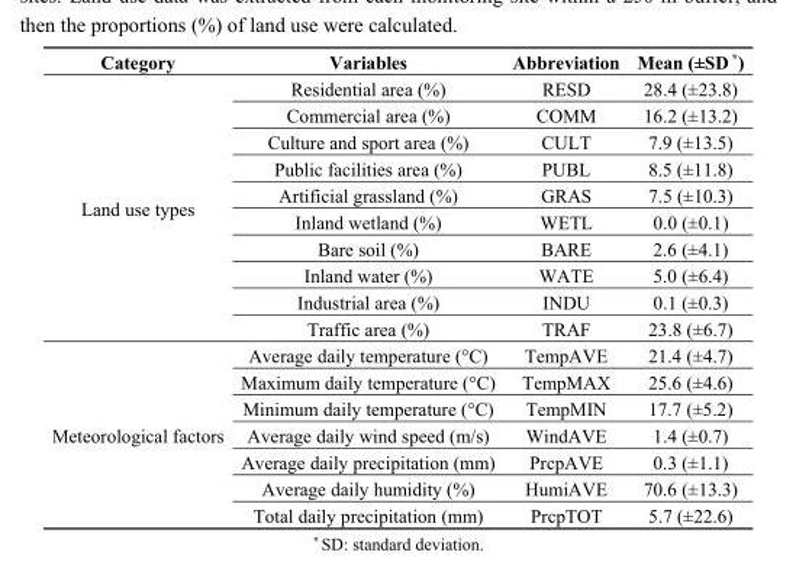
<table><thead><tr><td>Category</td><td>Variables</td><td>Abbreviation</td><td>Mean (±SD *)</td></tr></thead><tbody><tr><td rowspan="10">Land use types</td><td>Residential area (%)</td><td>RESD</td><td>28.4 (±23.8)</td></tr><tr><td>Commercial area (%)</td><td>COMM</td><td>16.2 (±13.2)</td></tr><tr><td>Culture and sport area (%)</td><td>CULT</td><td>7.9 (±13.5)</td></tr><tr><td>Public facilities area (%)</td><td>PUBL</td><td>8.5 (±11.8)</td></tr><tr><td>Artificial grassland (%)</td><td>GRAS</td><td>7.5 (±10.3)</td></tr><tr><td>Inland wetland (%)</td><td>WETL</td><td>0.0 (±0.1)</td></tr><tr><td>Bare soil (%)</td><td>BARE</td><td>2.6 (±4.1)</td></tr><tr><td>Inland water (%)</td><td>WATE</td><td>5.0 (±6.4)</td></tr><tr><td>Industrial area (%)</td><td>INDU</td><td>0.1 (±0.3)</td></tr><tr><td>Traffic area (%)</td><td>TRAF</td><td>23.8 (±6.7)</td></tr><tr><td rowspan="7">Meteorological factors</td><td>Average daily temperature (°C)</td><td>TempAVE</td><td>21.4 (±4.7)</td></tr><tr><td>Maximum daily temperature (°C)</td><td>TempMAX</td><td>25.6 (±4.6)</td></tr><tr><td>Minimum daily temperature (°C)</td><td>TempMIN</td><td>17.7 (±5.2)</td></tr><tr><td>Average daily wind speed (m/s)</td><td>WindAVE</td><td>1.4 (±0.7)</td></tr><tr><td>Average daily precipitation (mm)</td><td>PrcpAVE</td><td>0.3 (±1.1)</td></tr><tr><td>Average daily humidity (%)</td><td>HumiAVE</td><td>70.6 (±13.3)</td></tr><tr><td>Total daily precipitation (mm)</td><td>PrcpTOT</td><td>5.7 (±22.6)</td></tr></tbody></table>